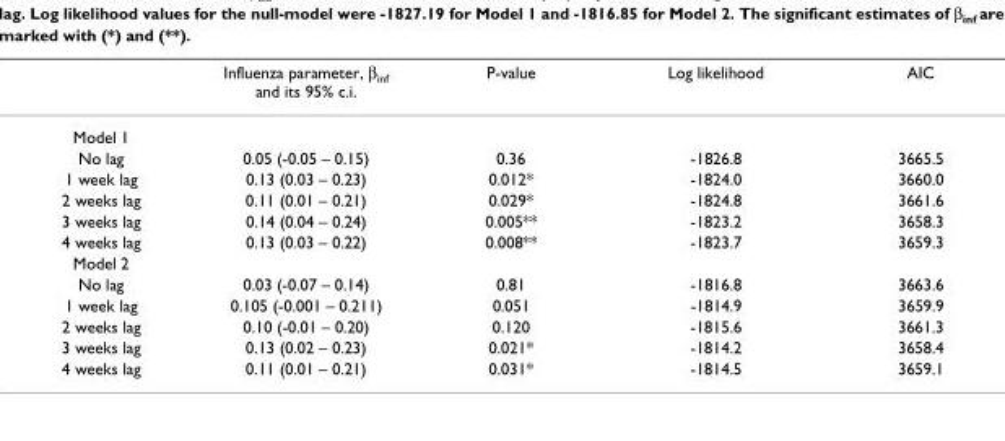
<table><thead><tr><td></td><td>Influenza parameter, β<sub>inf</sub> and its 95% c.i.</td><td>P-value</td><td>Log likelihood</td><td>AIC</td></tr></thead><tbody><tr><td colspan="5">Model 1</td></tr><tr><td>No lag</td><td>0.05 (-0.05 – 0.15)</td><td>0.36</td><td>-1826.8</td><td>3665.5</td></tr><tr><td>1 week lag</td><td>0.13 (0.03 – 0.23)</td><td>0.012*</td><td>-1824.0</td><td>3660.0</td></tr><tr><td>2 weeks lag</td><td>0.11 (0.01 – 0.21)</td><td>0.029*</td><td>-1824.8</td><td>3661.6</td></tr><tr><td>3 weeks lag</td><td>0.14 (0.04 – 0.24)</td><td>0.005**</td><td>-1823.2</td><td>3658.3</td></tr><tr><td>4 weeks lag</td><td>0.13 (0.03 – 0.22)</td><td>0.008**</td><td>-1823.7</td><td>3659.3</td></tr><tr><td colspan="5">Model 2</td></tr><tr><td>No lag</td><td>0.03 (-0.07 – 0.14)</td><td>0.81</td><td>-1816.8</td><td>3663.6</td></tr><tr><td>1 week lag</td><td>0.105 (-0.001 – 0.211)</td><td>0.051</td><td>-1814.9</td><td>3659.9</td></tr><tr><td>2 weeks lag</td><td>0.10 (-0.01 – 0.20)</td><td>0.120</td><td>-1815.6</td><td>3661.3</td></tr><tr><td>3 weeks lag</td><td>0.13 (0.02 – 0.23)</td><td>0.021*</td><td>-1814.2</td><td>3658.4</td></tr><tr><td>4 weeks lag</td><td>0.11 (0.01 – 0.21)</td><td>0.031*</td><td>-1814.5</td><td>3659.1</td></tr></tbody></table>